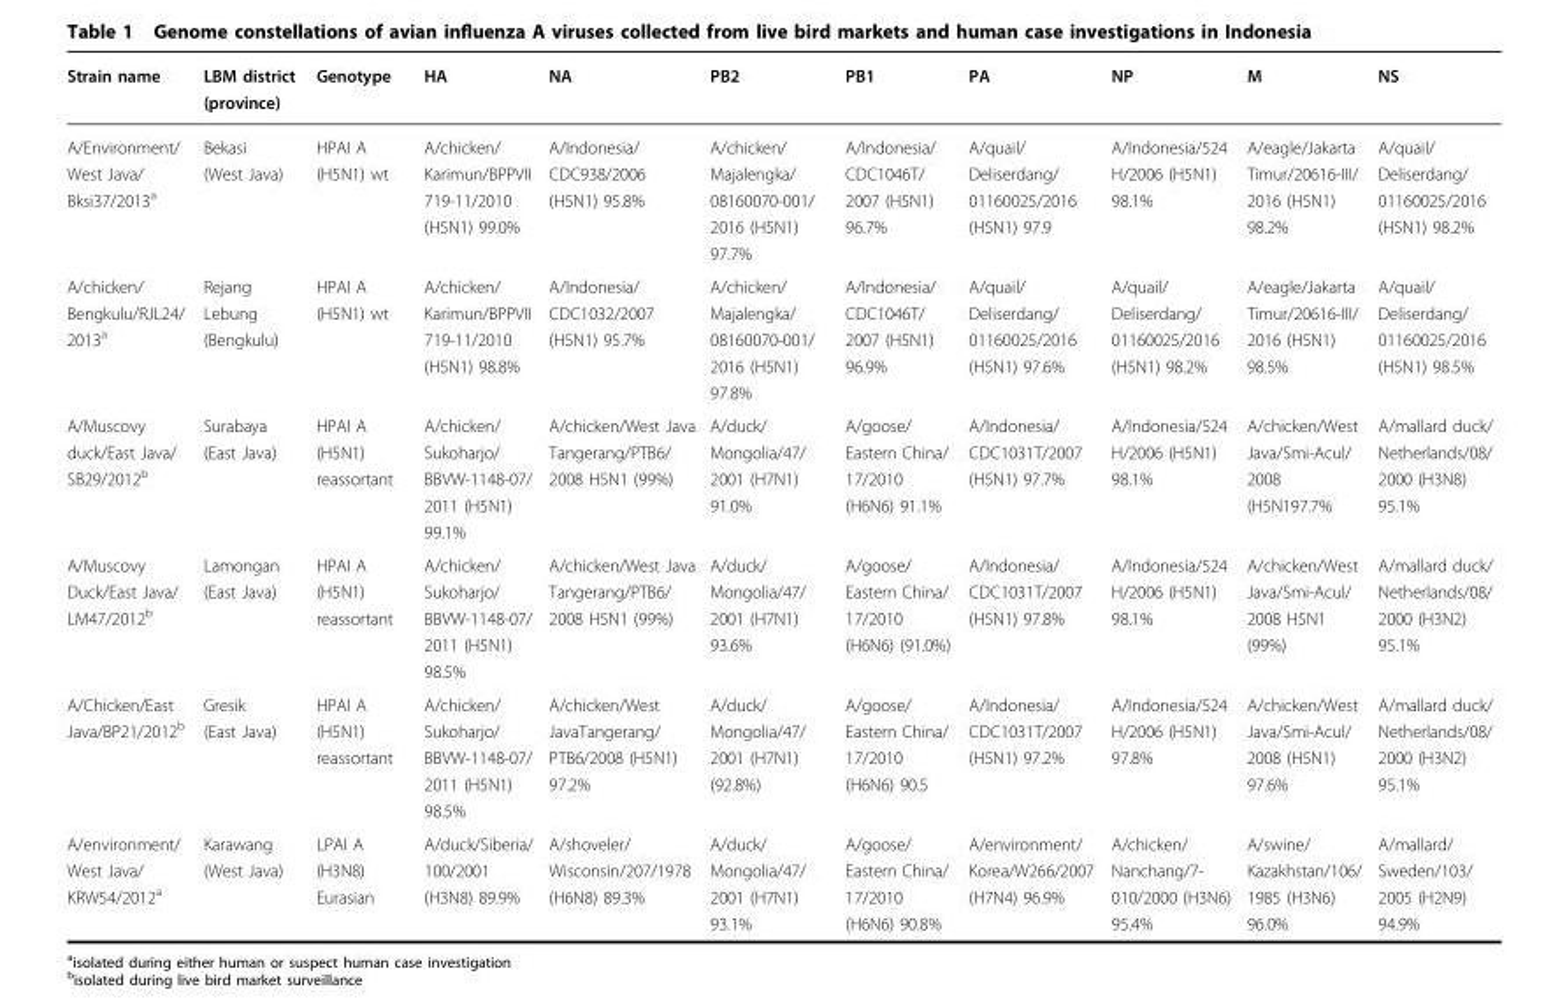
<table><thead><tr><td>Strain name</td><td>LBM district (province)</td><td>Genotype</td><td>HA</td><td>NA</td><td>PB2</td><td>PB1</td><td>PA</td><td>NP</td><td>M</td><td>NS</td></tr></thead><tbody><tr><td>A/Environment/ West Java/ Bksi37/2013<sup>a</sup></td><td>Bekasi (West Java)</td><td>HPAI A (H5N1) wt</td><td>A/chicken/ Karimun/BPPVII 719-11/2010 (H5N1) 99.0%</td><td>A/Indonesia/ CDC938/2006 (H5N1) 95.8%</td><td>A/chicken/ Majalengka/ 08160070-001/ 2016 (H5N1) 97.7%</td><td>A/Indonesia/ CDC1046T/ 2007 (H5N1) 96.7%</td><td>A/quail/ Deliserdang/ 01160025/2016 (H5N1) 97.9</td><td>A/Indonesia/524 H/2006 (H5N1) 98.1%</td><td>A/eagle/Jakarta Timur/20616-III/ 2016 (H5N1) 98.2%</td><td>A/quail/ Deliserdang/ 01160025/2016 (H5N1) 98.2%</td></tr><tr><td>A/chicken/ Bengkulu/RJL24/ 2013<sup>a</sup></td><td>Rejang Lebung (Bengkulu)</td><td>HPAI A (H5N1) wt</td><td>A/chicken/ Karimun/BPPVII 719-11/2010 (H5N1) 98.8%</td><td>A/Indonesia/ CDC1032/2007 (H5N1) 95.7%</td><td>A/chicken/ Majalengka/ 08160070-001/ 2016 (H5N1) 97.8%</td><td>A/Indonesia/ CDC1046T/ 2007 (H5N1) 96.9%</td><td>A/quail/ Deliserdang/ 01160025/2016 (H5N1) 97.6%</td><td>A/quail/ Deliserdang/ 01160025/2016 (H5N1) 98.2%</td><td>A/eagle/Jakarta Timur/20616-III/ 2016 (H5N1) 98.5%</td><td>A/quail/ Deliserdang/ 01160025/2016 (H5N1) 98.5%</td></tr><tr><td>A/Muscovy duck/East Java/ SB29/2012<sup>b</sup></td><td>Surabaya (East Java)</td><td>HPAI A (H5N1) reassortant</td><td>A/chicken/ Sukoharjo/ BBVW-1148-07/ 2011 (H5N1) 99.1%</td><td>A/chicken/West Java Tangerang/PTB6/ 2008 H5N1 (99%)</td><td>A/duck/ Mongolia/47/ 2001 (H7N1) 91.0%</td><td>A/goose/ Eastern China/ 17/2010 (H6N6) 91.1%</td><td>A/Indonesia/ CDC1031T/2007 (H5N1) 97.7%</td><td>A/Indonesia/524 H/2006 (H5N1) 98.1%</td><td>A/chicken/West Java/Smi-Acul/ 2008 (H5N197.7%</td><td>A/mallard duck/ Netherlands/08/ 2000 (H3N8) 95.1%</td></tr><tr><td>A/Muscovy Duck/East Java/ LM47/2012<sup>b</sup></td><td>Lamongan (East Java)</td><td>HPAI A (H5N1) reassortant</td><td>A/chicken/ Sukoharjo/ BBVW-1148-07/ 2011 (H5N1) 98.5%</td><td>A/chicken/West Java Tangerang/PTB6/ 2008 H5N1 (99%)</td><td>A/duck/ Mongolia/47/ 2001 (H7N1) 93.6%</td><td>A/goose/ Eastern China/ 17/2010 (H6N6) (91.0%)</td><td>A/Indonesia/ CDC1031T/2007 (H5N1) 97.8%</td><td>A/Indonesia/524 H/2006 (H5N1) 98.1%</td><td>A/chicken/West Java/Smi-Acul/ 2008 H5N1 (99%)</td><td>A/mallard duck/ Netherlands/08/ 2000 (H3N2) 95.1%</td></tr><tr><td>A/Chicken/East Java/BP21/2012<sup>b</sup></td><td>Gresik (East Java)</td><td>HPAI A (H5N1) reassortant</td><td>A/chicken/ Sukoharjo/ BBVW-1148-07/ 2011 (H5N1) 98.5%</td><td>A/chicken/West JavaTangerang/ PTB6/2008 (H5N1) 97.2%</td><td>A/duck/ Mongolia/47/ 2001 (H7N1) (92.8%)</td><td>A/goose/ Eastern China/ 17/2010 (H6N6) 90.5</td><td>A/Indonesia/ CDC1031T/2007 (H5N1) 97.2%</td><td>A/Indonesia/524 H/2006 (H5N1) 97.8%</td><td>A/chicken/West Java/Smi-Acul/ 2008 (H5N1) 97.6%</td><td>A/mallard duck/ Netherlands/08/ 2000 (H3N2) 95.1%</td></tr><tr><td>A/environment/ West Java/ KRW54/2012<sup>a</sup></td><td>Karawang (West Java)</td><td>LPAI A (H3N8) Eurasian</td><td>A/duck/Siberia/ 100/2001 (H3N8) 89.9%</td><td>A/shoveler/ Wisconsin/207/1978 (H6N8) 89.3%</td><td>A/duck/ Mongolia/47/ 2001 (H7N1) 93.1%</td><td>A/goose/ Eastern China/ 17/2010 (H6N6) 90.8%</td><td>A/environment/ Korea/W266/2007 (H7N4) 96.9%</td><td>A/chicken/ Nanchang/7- 010/2000 (H3N6) 95.4%</td><td>A/swine/ Kazakhstan/106/ 1985 (H3N6) 96.0%</td><td>A/mallard/ Sweden/103/ 2005 (H2N9) 94.9%</td></tr></tbody></table>